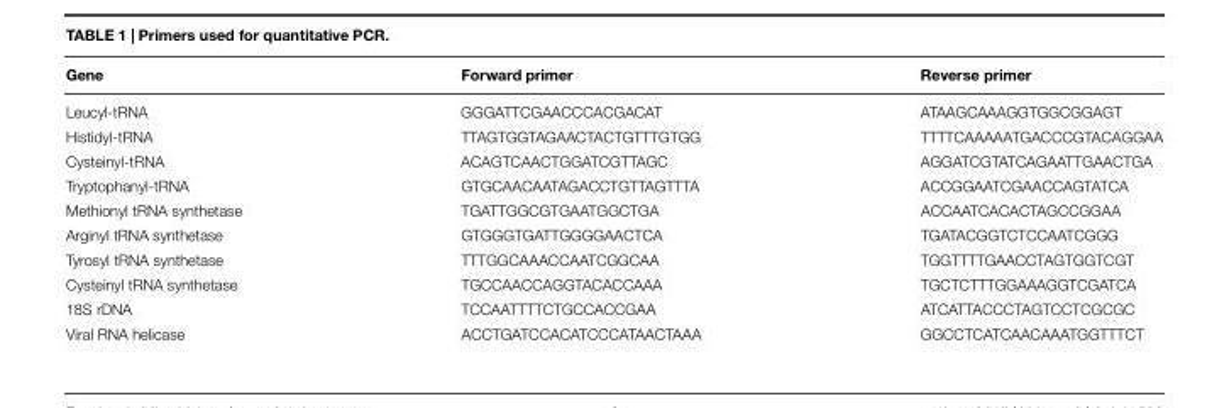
<table><thead><tr><td>Gene</td><td>Forward primer</td><td>Reverse primer</td></tr></thead><tbody><tr><td>Leucyl-tRNA</td><td>GGGATTCGAACCCACGACAT</td><td>ATAAGCAAAGGTGGCGGAGT</td></tr><tr><td>Histidyl-tRNA</td><td>TTAGTGGTAGAACTACTGTTTGTGG</td><td>TTTTCAAAAATGACCCGTACAGGAA</td></tr><tr><td>Cysteinyl-tRNA</td><td>ACAGTCAACTGGATCGTTAGC</td><td>AGGATCGTATCAGAATTGAACTGA</td></tr><tr><td>Tryptophanyl-tRNA</td><td>GTGCAACAATAGACCTGTTAGTTTA</td><td>ACCGGAATCGAACCAGTATCA</td></tr><tr><td>Methionyl tRNA synthetase</td><td>TGATTGGCGTGAATGGCTGA</td><td>ACCAATCACACTAGCCGGAA</td></tr><tr><td>Arginyl tRNA synthetase</td><td>GTGGGTGATTGGGGAACTCA</td><td>TGATACGGTCTCCAATCGGG</td></tr><tr><td>Tyrosyl tRNA synthetase</td><td>TTTGGCAAACCAATCGGCAA</td><td>TGGTTTTGAACCTAGTGGTCGT</td></tr><tr><td>Cysteinyl tRNA synthetase</td><td>TGCCAACCAGGTACACCAAA</td><td>TGCTCTTTGGAAAGGTCGATCA</td></tr><tr><td>18S rDNA</td><td>TCCAATTTTCTGCCACCGAA</td><td>ATCATTACCCTAGTCCTCGCGC</td></tr><tr><td>Viral RNA helicase</td><td>ACCTGATCCACATCCCATAACTAAA</td><td>GGCCTCATCAACAAATGGTTTCT</td></tr></tbody></table>